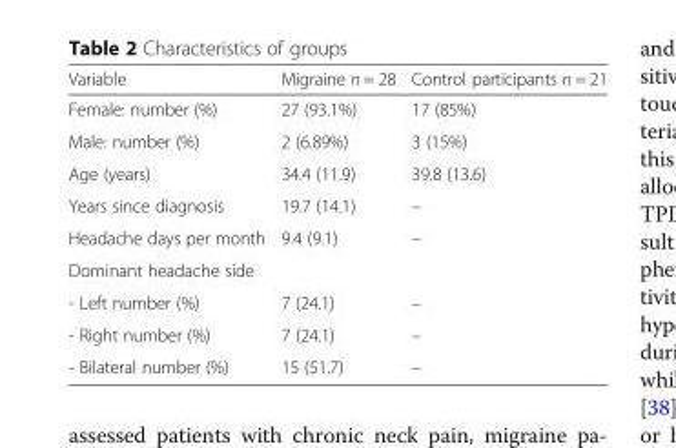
<table><thead><tr><td>Variable</td><td>Migraine n = 28</td><td>Control participants n = 21</td></tr></thead><tbody><tr><td>Female: number (%)</td><td>27 (93.1%)</td><td>17 (85%)</td></tr><tr><td>Male: number (%)</td><td>2 (6.89%)</td><td>3 (15%)</td></tr><tr><td>Age (years)</td><td>34.4 (11.9)</td><td>39.8 (13.6)</td></tr><tr><td>Years since diagnosis</td><td>19.7 (14.1)</td><td>–</td></tr><tr><td>Headache days per month</td><td>9.4 (9.1)</td><td>–</td></tr><tr><td colspan="3">Dominant headache side</td></tr><tr><td>- Left number (%)</td><td>7 (24.1)</td><td>–</td></tr><tr><td>- Right number (%)</td><td>7 (24.1)</td><td>–</td></tr><tr><td>- Bilateral number (%)</td><td>15 (51.7)</td><td>–</td></tr></tbody></table>